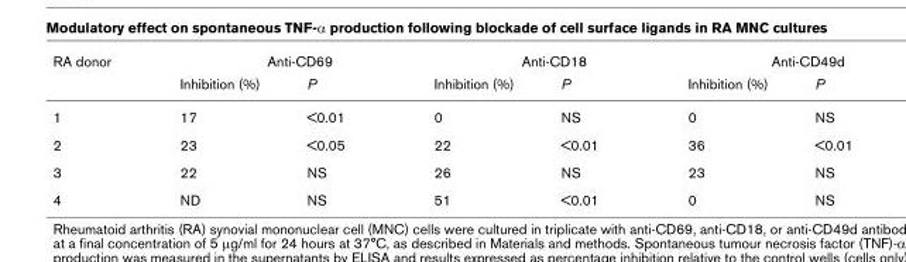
<table><thead><tr><td rowspan="2">RA donor</td><td colspan="2">Anti-CD69</td><td colspan="2">Anti-CD18</td><td colspan="2">Anti-CD49d</td></tr><tr><td>Inhibition (%)</td><td>P</td><td>Inhibition (%)</td><td>P</td><td>Inhibition (%)</td><td>P</td></tr></thead><tbody><tr><td>1</td><td>17</td><td>&lt;0.01</td><td>0</td><td>NS</td><td>0</td><td>NS</td></tr><tr><td>2</td><td>23</td><td>&lt;0.05</td><td>22</td><td>&lt;0.01</td><td>36</td><td>&lt;0.01</td></tr><tr><td>3</td><td>22</td><td>NS</td><td>26</td><td>NS</td><td>23</td><td>NS</td></tr><tr><td>4</td><td>ND</td><td>NS</td><td>51</td><td>&lt;0.01</td><td>0</td><td>NS</td></tr></tbody></table>